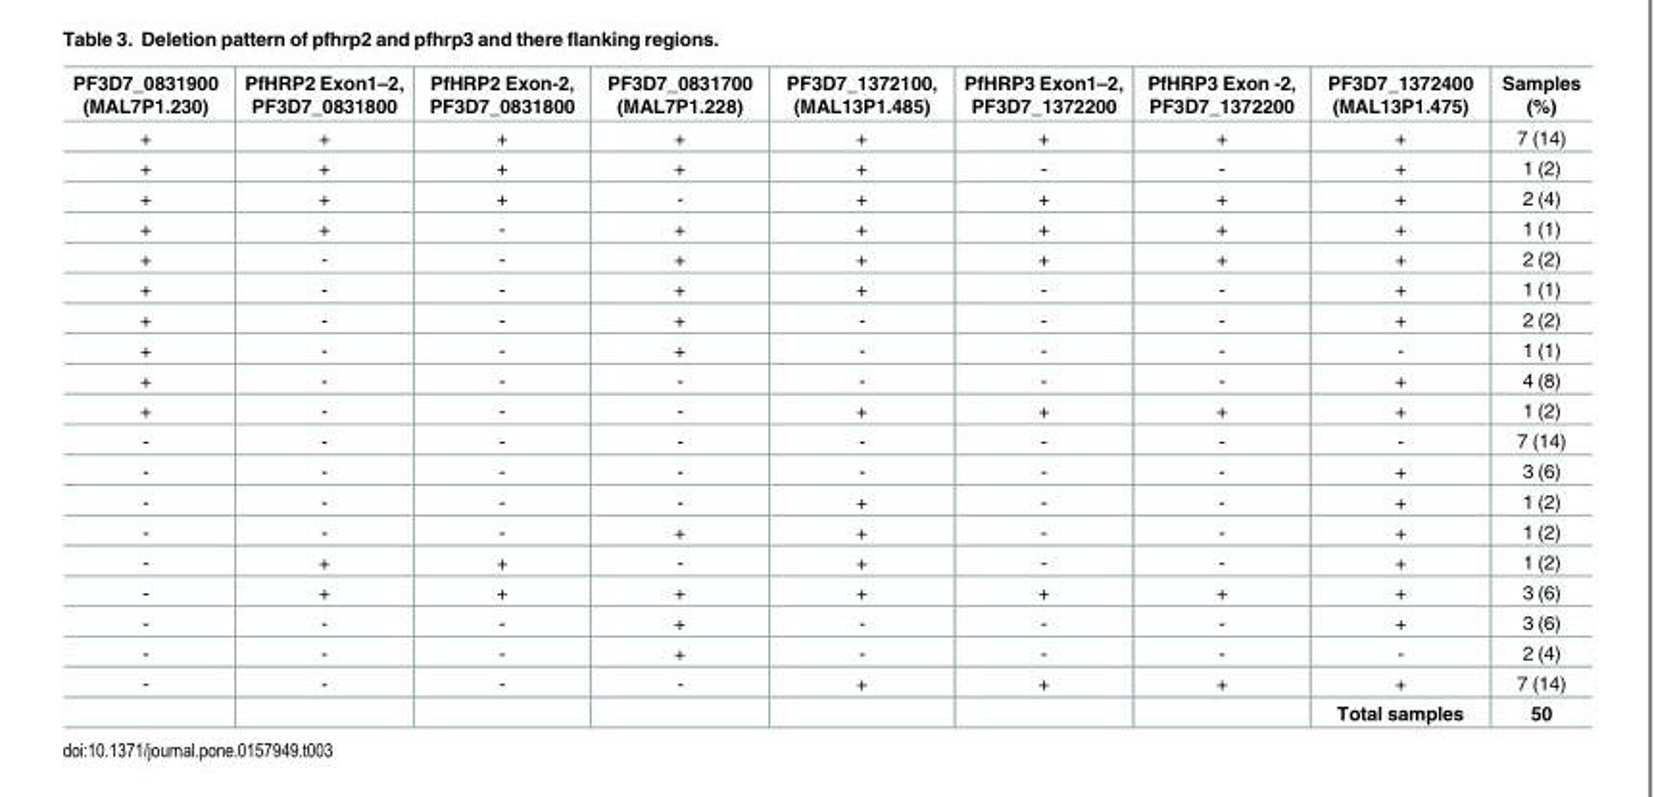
<table><thead><tr><td>PF3D7_0831900 (MAL7P1.230)</td><td>PfHRP2 Exon1–2, PF3D7_0831800</td><td>PfHRP2 Exon-2, PF3D7_0831800</td><td>PF3D7_0831700 (MAL7P1.228)</td><td>PF3D7_1372100, (MAL13P1.485)</td><td>PfHRP3 Exon1–2, PF3D7_1372200</td><td>PfHRP3 Exon -2, PF3D7_1372200</td><td>PF3D7_1372400 (MAL13P1.475)</td><td>Samples (%)</td></tr></thead><tbody><tr><td>+</td><td>+</td><td>+</td><td>+</td><td>+</td><td>+</td><td>+</td><td>+</td><td>7 (14)</td></tr><tr><td>+</td><td>+</td><td>+</td><td>+</td><td>+</td><td>-</td><td>-</td><td>+</td><td>1 (2)</td></tr><tr><td>+</td><td>+</td><td>+</td><td>-</td><td>+</td><td>+</td><td>+</td><td>+</td><td>2 (4)</td></tr><tr><td>+</td><td>+</td><td>-</td><td>+</td><td>+</td><td>+</td><td>+</td><td>+</td><td>1 (1)</td></tr><tr><td>+</td><td>-</td><td>-</td><td>+</td><td>+</td><td>+</td><td>+</td><td>+</td><td>2 (2)</td></tr><tr><td>+</td><td>-</td><td>-</td><td>+</td><td>+</td><td>-</td><td>-</td><td>+</td><td>1 (1)</td></tr><tr><td>+</td><td>-</td><td>-</td><td>+</td><td>-</td><td>-</td><td>-</td><td>+</td><td>2 (2)</td></tr><tr><td>+</td><td>-</td><td>-</td><td>+</td><td>-</td><td>-</td><td>-</td><td>-</td><td>1 (1)</td></tr><tr><td>+</td><td>-</td><td>-</td><td>-</td><td>-</td><td>-</td><td>-</td><td>+</td><td>4 (8)</td></tr><tr><td>+</td><td>-</td><td>-</td><td>-</td><td>+</td><td>+</td><td>+</td><td>+</td><td>1 (2)</td></tr><tr><td>-</td><td>-</td><td>-</td><td>-</td><td>-</td><td>-</td><td>-</td><td>-</td><td>7 (14)</td></tr><tr><td>-</td><td>-</td><td>-</td><td>-</td><td>-</td><td>-</td><td>-</td><td>+</td><td>3 (6)</td></tr><tr><td>-</td><td>-</td><td>-</td><td>-</td><td>+</td><td>-</td><td>-</td><td>+</td><td>1 (2)</td></tr><tr><td>-</td><td>-</td><td>-</td><td>+</td><td>+</td><td>-</td><td>-</td><td>+</td><td>1 (2)</td></tr><tr><td>-</td><td>+</td><td>+</td><td>-</td><td>+</td><td>-</td><td>-</td><td>+</td><td>1 (2)</td></tr><tr><td>-</td><td>+</td><td>+</td><td>+</td><td>+</td><td>+</td><td>+</td><td>+</td><td>3 (6)</td></tr><tr><td>-</td><td>-</td><td>-</td><td>+</td><td>-</td><td>-</td><td>-</td><td>+</td><td>3 (6)</td></tr><tr><td>-</td><td>-</td><td>-</td><td>+</td><td>-</td><td>-</td><td>-</td><td>-</td><td>2 (4)</td></tr><tr><td rowspan="2">-</td><td>-</td><td>-</td><td>-</td><td>+</td><td>+</td><td>+</td><td>+</td><td>7 (14)</td></tr><tr><td></td><td></td><td></td><td></td><td></td><td></td><td>Total samples</td><td>50</td></tr></tbody></table>